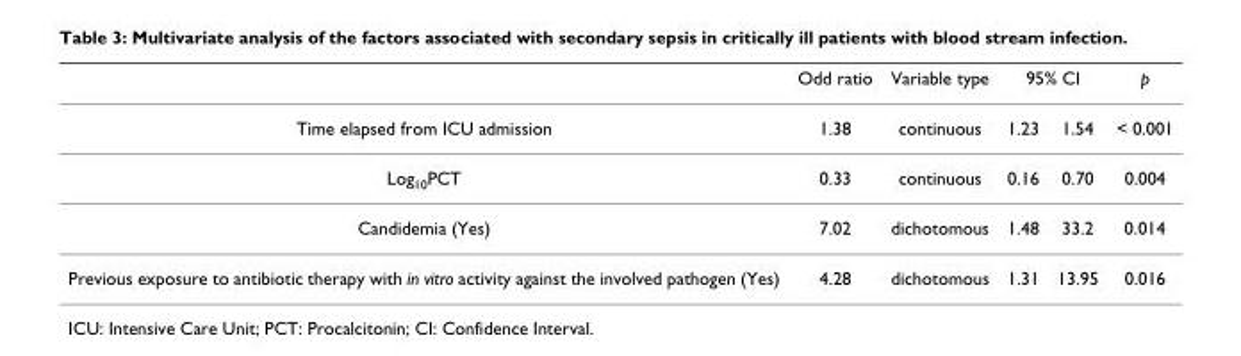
<table><thead><tr><td rowspan="2">Time elapsed from ICU admission</td><td rowspan="2">Odd ratio 1.38</td><td rowspan="2">Variable type continuous</td><td colspan="2">95% CI</td><td rowspan="2">p &lt; 0.001</td></tr><tr><td>1.23</td><td>1.54</td></tr></thead><tbody><tr><td>Log<sub>10</sub>PCT</td><td>0.33</td><td>continuous</td><td>0.16</td><td>0.70</td><td>0.004</td></tr><tr><td>Candidemia (Yes)</td><td>7.02</td><td>dichotomous</td><td>1.48</td><td>33.2</td><td>0.014</td></tr><tr><td>Previous exposure to antibiotic therapy with in vitro activity against the involved pathogen (Yes)</td><td>4.28</td><td>dichotomous</td><td>1.31</td><td>13.95</td><td>0.016</td></tr></tbody></table>